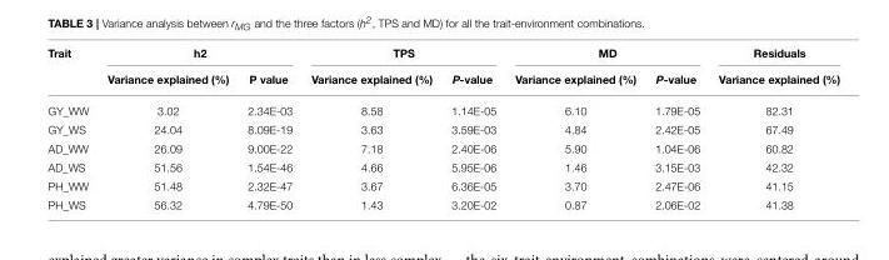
<table><thead><tr><td rowspan="2">Trait</td><td colspan="2">h2</td><td colspan="2">TPS</td><td colspan="2">MD</td><td rowspan="2">Residuals Variance explained (%)</td></tr><tr><td>Variance explained (%)</td><td>P value</td><td>Variance explained (%)</td><td>P-value</td><td>Variance explained (%)</td><td>P-value</td></tr></thead><tbody><tr><td>GY_WW</td><td>3.02</td><td>2.34E-03</td><td>8.58</td><td>1.14E-05</td><td>6.10</td><td>1.79E-05</td><td>82.31</td></tr><tr><td>GY_WS</td><td>24.04</td><td>8.09E-19</td><td>3.63</td><td>3.59E-03</td><td>4.84</td><td>2.42E-05</td><td>67.49</td></tr><tr><td>AD_WW</td><td>26.09</td><td>9.00E-22</td><td>7.18</td><td>2.40E-06</td><td>5.90</td><td>1.04E-06</td><td>60.82</td></tr><tr><td>AD_WS</td><td>51.56</td><td>1.54E-46</td><td>4.66</td><td>5.95E-06</td><td>1.46</td><td>3.15E-03</td><td>42.32</td></tr><tr><td>PH_WW</td><td>51.48</td><td>2.32E-47</td><td>3.67</td><td>6.36E-05</td><td>3.70</td><td>2.47E-06</td><td>41.15</td></tr><tr><td>PH_WS</td><td>56.32</td><td>4.79E-50</td><td>1.43</td><td>3.20E-02</td><td>0.87</td><td>2.06E-02</td><td>41.38</td></tr></tbody></table>